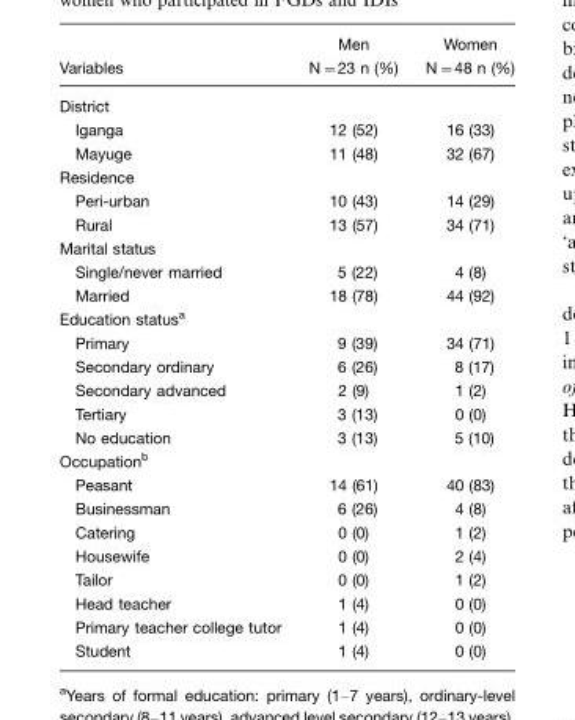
<table><thead><tr><td>Variables</td><td>N�23 n (%)</td><td>N�48 n (%)</td></tr></thead><tbody><tr><td colspan="3">District</td></tr><tr><td>Iganga</td><td>12 (52)</td><td>16 (33)</td></tr><tr><td>Mayuge</td><td>11 (48)</td><td>32 (67)</td></tr><tr><td colspan="3">Residence</td></tr><tr><td>Peri-urban</td><td>10 (43)</td><td>14 (29)</td></tr><tr><td>Rural</td><td>13 (57)</td><td>34 (71)</td></tr><tr><td colspan="3">Marital status</td></tr><tr><td>Single/never married</td><td>5 (22)</td><td>4 (8)</td></tr><tr><td>Married</td><td>18 (78)</td><td>44 (92)</td></tr><tr><td colspan="3">Education status<sup>a</sup></td></tr><tr><td>Primary</td><td>9 (39)</td><td>34 (71)</td></tr><tr><td>Secondary ordinary</td><td>6 (26)</td><td>8 (17)</td></tr><tr><td>Secondary advanced</td><td>2 (9)</td><td>1 (2)</td></tr><tr><td>Tertiary</td><td>3 (13)</td><td>0 (0)</td></tr><tr><td>No education</td><td>3 (13)</td><td>5 (10)</td></tr><tr><td colspan="3">Occupation<sup>b</sup></td></tr><tr><td>Peasant</td><td>14 (61)</td><td>40 (83)</td></tr><tr><td>Businessman</td><td>6 (26)</td><td>4 (8)</td></tr><tr><td>Catering</td><td>0 (0)</td><td>1 (2)</td></tr><tr><td>Housewife</td><td>0 (0)</td><td>2 (4)</td></tr><tr><td>Tailor</td><td>0 (0)</td><td>1 (2)</td></tr><tr><td>Head teacher</td><td>1 (4)</td><td>0 (0)</td></tr><tr><td>Primary teacher college tutor</td><td>1 (4)</td><td>0 (0)</td></tr><tr><td>Student</td><td>1 (4)</td><td>0 (0)</td></tr></tbody></table>